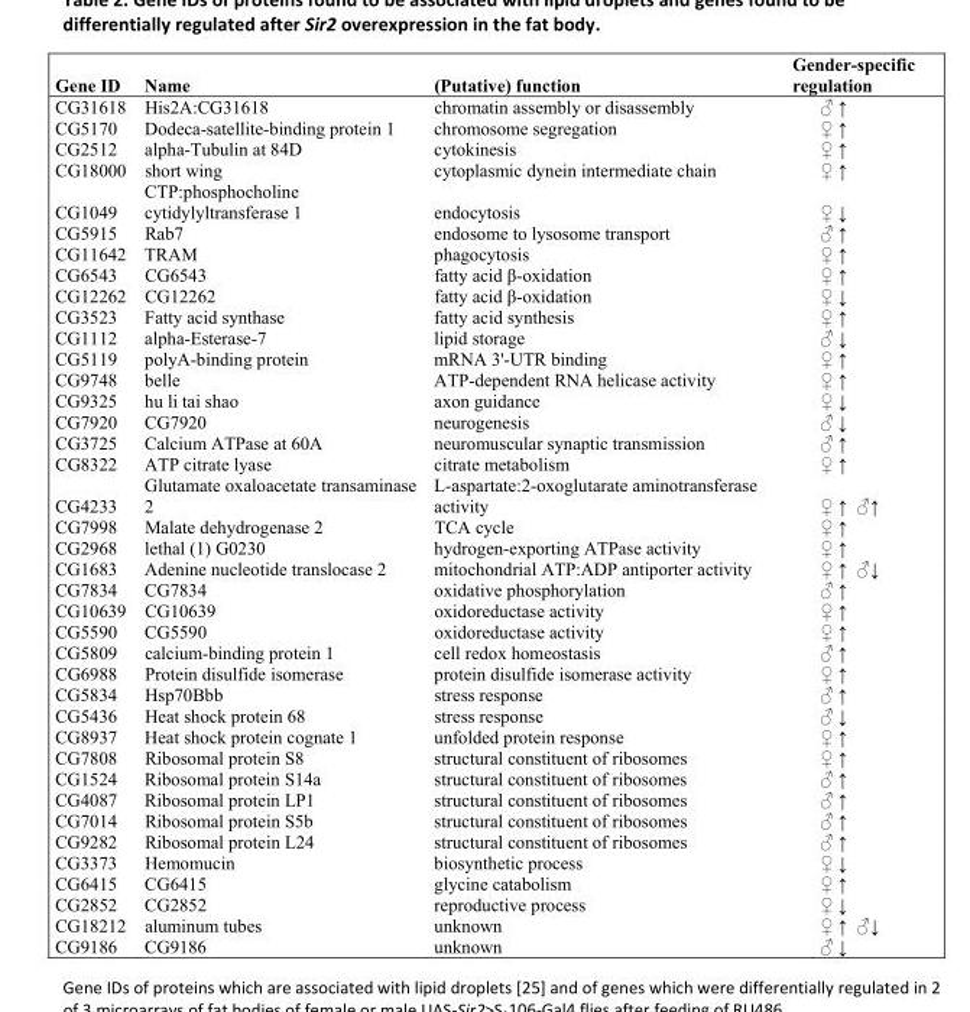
<table><thead><tr><td rowspan="2">Gene ID CG31618</td><td rowspan="2">Name His2A:CG31618</td><td rowspan="2">(Putative) function chromatin assembly or disassembly</td><td colspan="2">Gender-specific regulation</td></tr><tr><td>♂ ↑</td><td></td></tr></thead><tbody><tr><td>CG5170</td><td>Dodeca-satellite-binding protein 1</td><td>chromosome segregation</td><td>♀ ↑</td><td></td></tr><tr><td>CG2512</td><td>alpha-Tubulin at 84D</td><td>cytokinesis</td><td>♀ ↑</td><td></td></tr><tr><td>CG18000</td><td>short wing</td><td>cytoplasmic dynein intermediate chain</td><td>♀ ↑</td><td></td></tr><tr><td>CG1049</td><td>CTP:phosphocholine cytidylyltransferase 1</td><td>endocytosis</td><td>♀ ↓</td><td></td></tr><tr><td>CG5915</td><td>Rab7</td><td>endosome to lysosome transport</td><td>♂ ↑</td><td></td></tr><tr><td>CG11642</td><td>TRAM</td><td>phagocytosis</td><td>♀ ↑</td><td></td></tr><tr><td>CG6543</td><td>CG6543</td><td>fatty acid β-oxidation</td><td>♀ ↑</td><td></td></tr><tr><td>CG12262</td><td>CG12262</td><td>fatty acid β-oxidation</td><td>♀ ↓</td><td></td></tr><tr><td>CG3523</td><td>Fatty acid synthase</td><td>fatty acid synthesis</td><td>♀ ↑</td><td></td></tr><tr><td>CG1112</td><td>alpha-Esterase-7</td><td>lipid storage</td><td>♂ ↓</td><td></td></tr><tr><td>CG5119</td><td>polyA-binding protein</td><td>mRNA 3&#x27;-UTR binding</td><td>♀ ↑</td><td></td></tr><tr><td>CG9748</td><td>belle</td><td>ATP-dependent RNA helicase activity</td><td>♀ ↑</td><td></td></tr><tr><td>CG9325</td><td>hu li tai shao</td><td>axon guidance</td><td>♀ ↓</td><td></td></tr><tr><td>CG7920</td><td>CG7920</td><td>neurogenesis</td><td>♂ ↓</td><td></td></tr><tr><td>CG3725</td><td>Calcium ATPase at 60A</td><td>neuromuscular synaptic transmission</td><td>♂ ↑</td><td></td></tr><tr><td>CG8322</td><td>ATP citrate lyase</td><td>citrate metabolism</td><td>♀ ↑</td><td></td></tr><tr><td>CG4233</td><td>Glutamate oxaloacetate transaminase 2</td><td>L-aspartate:2-oxoglutarate aminotransferase activity</td><td>♀ ↑</td><td>♂↑</td></tr><tr><td>CG7998</td><td>Malate dehydrogenase 2</td><td>TCA cycle</td><td>♀ ↑</td><td></td></tr><tr><td>CG2968</td><td>lethal (1) G0230</td><td>hydrogen-exporting ATPase activity</td><td>♀ ↑</td><td></td></tr><tr><td>CG1683</td><td>Adenine nucleotide translocase 2</td><td>mitochondrial ATP:ADP antiporter activity</td><td>♀ ↑</td><td>♂↓</td></tr><tr><td>CG7834</td><td>CG7834</td><td>oxidative phosphorylation</td><td>♂ ↑</td><td></td></tr><tr><td>CG10639</td><td>CG10639</td><td>oxidoreductase activity</td><td>♀ ↑</td><td></td></tr><tr><td>CG5590</td><td>CG5590</td><td>oxidoreductase activity</td><td>♀ ↑</td><td></td></tr><tr><td>CG5809</td><td>calcium-binding protein 1</td><td>cell redox homeostasis</td><td>♂ ↑</td><td></td></tr><tr><td>CG6988</td><td>Protein disulfide isomerase</td><td>protein disulfide isomerase activity</td><td>♀ ↑</td><td></td></tr><tr><td>CG5834</td><td>Hsp70Bbb</td><td>stress response</td><td>♂ ↑</td><td></td></tr><tr><td>CG5436</td><td>Heat shock protein 68</td><td>stress response</td><td>♂ ↓</td><td></td></tr><tr><td>CG8937</td><td>Heat shock protein cognate 1</td><td>unfolded protein response</td><td>♀ ↑</td><td></td></tr><tr><td>CG7808</td><td>Ribosomal protein S8</td><td>structural constituent of ribosomes</td><td>♀ ↑</td><td></td></tr><tr><td>CG1524</td><td>Ribosomal protein S14a</td><td>structural constituent of ribosomes</td><td>♂ ↑</td><td></td></tr><tr><td>CG4087</td><td>Ribosomal protein LP1</td><td>structural constituent of ribosomes</td><td>♂ ↑</td><td></td></tr><tr><td>CG7014</td><td>Ribosomal protein S5b</td><td>structural constituent of ribosomes</td><td>♂ ↑</td><td></td></tr><tr><td>CG9282</td><td>Ribosomal protein L24</td><td>structural constituent of ribosomes</td><td>♂ ↑</td><td></td></tr><tr><td>CG3373</td><td>Hemomucin</td><td>biosynthetic process</td><td>♀ ↓</td><td></td></tr><tr><td>CG6415</td><td>CG6415</td><td>glycine catabolism</td><td>♀ ↑</td><td></td></tr><tr><td>CG2852</td><td>CG2852</td><td>reproductive process</td><td>♀ ↓</td><td></td></tr><tr><td>CG18212</td><td>aluminum tubes</td><td>unknown</td><td>♀ ↑</td><td>♂↓</td></tr><tr><td>CG9186</td><td>CG9186</td><td>unknown</td><td>♂ ↓</td><td></td></tr></tbody></table>